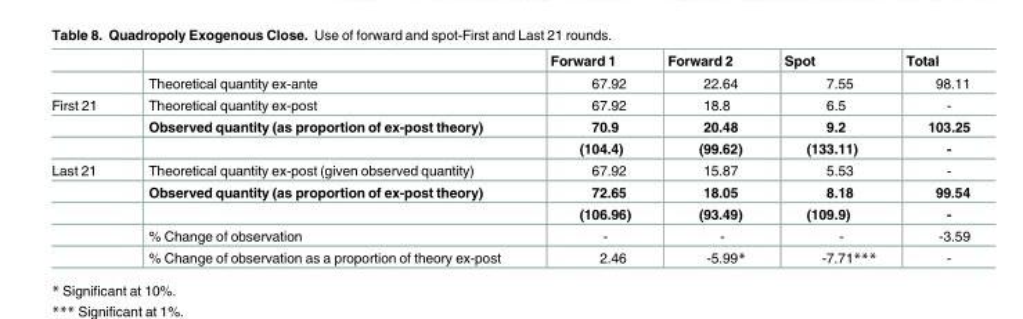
<table><thead><tr><td></td><td></td><td>Forward 1</td><td>Forward 2</td><td>Spot</td><td>Total</td></tr></thead><tbody><tr><td></td><td>Theoretical quantity ex-ante</td><td>67.92</td><td>22.64</td><td>7.55</td><td>98.11</td></tr><tr><td rowspan="3">First 21</td><td>Theoretical quantity ex-post</td><td>67.92</td><td>18.8</td><td>6.5</td><td>-</td></tr><tr><td>Observed quantity (as proportion of ex-post theory)</td><td>70.9</td><td>20.48</td><td>9.2</td><td>103.25</td></tr><tr><td></td><td>(104.4)</td><td>(99.62)</td><td>(133.11)</td><td>-</td></tr><tr><td rowspan="5">Last 21</td><td>Theoretical quantity ex-post (given observed quantity)</td><td>67.92</td><td>15.87</td><td>5.53</td><td>-</td></tr><tr><td>Observed quantity (as proportion of ex-post theory)</td><td>72.65</td><td>18.05</td><td>8.18</td><td>99.54</td></tr><tr><td></td><td>(106.96)</td><td>(93.49)</td><td>(109.9)</td><td>-</td></tr><tr><td>% Change of observation</td><td>-</td><td>-</td><td>-</td><td>-3.59</td></tr><tr><td>% Change of observation as a proportion of theory ex-post</td><td>2.46</td><td>-5.99*</td><td>-7.71***</td><td>-</td></tr></tbody></table>